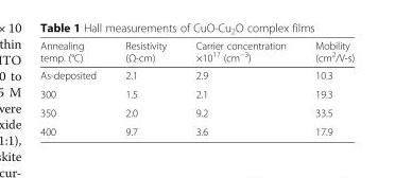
<table><thead><tr><td>Annealing temp. (°C)</td><td>Resistivity (Ω-cm)</td><td>Carrier concentration ×10<sup>17</sup> (cm<sup>−3</sup>)</td><td>Mobility (cm<sup>2</sup>/V-s)</td></tr></thead><tbody><tr><td>As-deposited</td><td>2.1</td><td>2.9</td><td>10.3</td></tr><tr><td>300</td><td>1.5</td><td>2.1</td><td>19.3</td></tr><tr><td>350</td><td>2.0</td><td>9.2</td><td>33.5</td></tr><tr><td>400</td><td>9.7</td><td>3.6</td><td>17.9</td></tr></tbody></table>